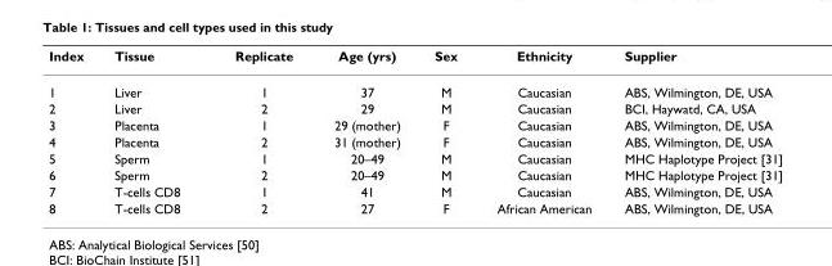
<table><thead><tr><td>Index</td><td>Tissue</td><td>Replicate</td><td>Age (yrs)</td><td>Sex</td><td>Ethnicity</td><td>Supplier</td></tr></thead><tbody><tr><td>1</td><td>Liver</td><td>1</td><td>37</td><td>M</td><td>Caucasian</td><td>ABS, Wilmington, DE, USA</td></tr><tr><td>2</td><td>Liver</td><td>2</td><td>29</td><td>M</td><td>Caucasian</td><td>BCI, Haywatd, CA, USA</td></tr><tr><td>3</td><td>Placenta</td><td>1</td><td>29 (mother)</td><td>F</td><td>Caucasian</td><td>ABS, Wilmington, DE, USA</td></tr><tr><td>4</td><td>Placenta</td><td>2</td><td>31 (mother)</td><td>F</td><td>Caucasian</td><td>ABS, Wilmington, DE, USA</td></tr><tr><td>5</td><td>Sperm</td><td>1</td><td>20–49</td><td>M</td><td>Caucasian</td><td>MHC Haplotype Project [31]</td></tr><tr><td>6</td><td>Sperm</td><td>2</td><td>20–49</td><td>M</td><td>Caucasian</td><td>MHC Haplotype Project [31]</td></tr><tr><td>7</td><td>T-cells CD8</td><td>1</td><td>41</td><td>M</td><td>Caucasian</td><td>ABS, Wilmington, DE, USA</td></tr><tr><td>8</td><td>T-cells CD8</td><td>2</td><td>27</td><td>F</td><td>African American</td><td>ABS, Wilmington, DE, USA</td></tr></tbody></table>